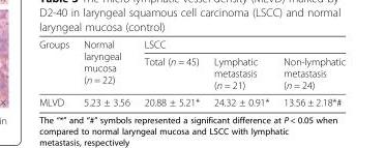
<table><thead><tr><td rowspan="2">Groups</td><td rowspan="2">Normal laryngeal mucosa (n = 22)</td><td colspan="3">LSCC</td></tr><tr><td>Total (n = 45)</td><td>Lymphatic metastasis (n = 21)</td><td>Non-lymphatic metastasis (n = 24)</td></tr></thead><tbody><tr><td>MLVD</td><td>5.23 ± 3.56</td><td>20.88 ± 5.21*</td><td>24.32 ± 0.91*</td><td>13.56 ± 2.18*#</td></tr></tbody></table>